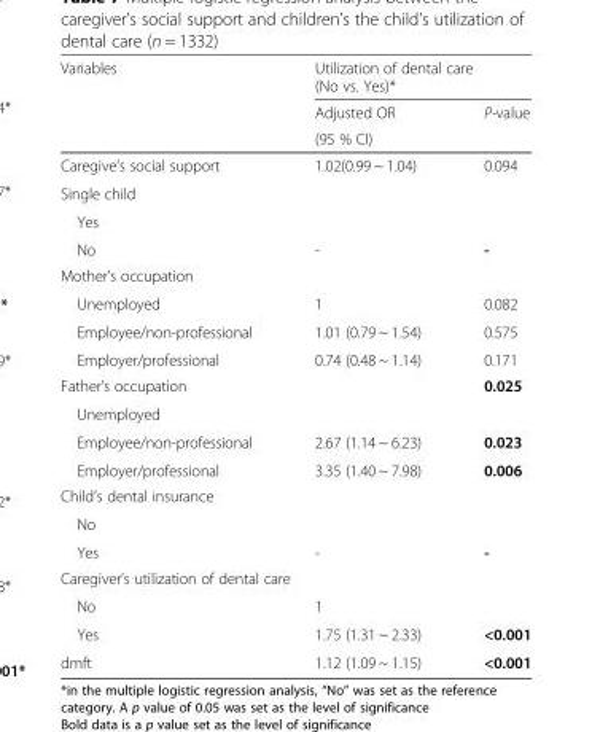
<table><thead><tr><td rowspan="4">Variables</td><td rowspan="2" colspan="2">Utilization of dental care (No vs. Yes)*</td></tr><tr></tr><tr><td rowspan="2">Adjusted OR (95 % CI)</td><td rowspan="2">P-value</td></tr><tr></tr></thead><tbody><tr><td>Caregive&#x27;s social support</td><td>1.02(0.99 ~ 1.04)</td><td>0.094</td></tr><tr><td colspan="3">Single child</td></tr><tr><td colspan="3">Yes</td></tr><tr><td>No</td><td>-</td><td>-</td></tr><tr><td colspan="3">Mother’s occupation</td></tr><tr><td>Unemployed</td><td>1</td><td>0.082</td></tr><tr><td>Employee/non-professional</td><td>1.01 (0.79 ~ 1.54)</td><td>0.575</td></tr><tr><td>Employer/professional</td><td>0.74 (0.48 ~ 1.14)</td><td>0.171</td></tr><tr><td>Father’s occupation</td><td></td><td>0.025</td></tr><tr><td colspan="3">Unemployed</td></tr><tr><td>Employee/non-professional</td><td>2.67 (1.14 ~ 6.23)</td><td>0.023</td></tr><tr><td>Employer/professional</td><td>3.35 (1.40 ~ 7.98)</td><td>0.006</td></tr><tr><td colspan="3">Child’s dental insurance</td></tr><tr><td colspan="3">No</td></tr><tr><td>Yes</td><td>-</td><td>-</td></tr><tr><td colspan="3">Caregiver’s utilization of dental care</td></tr><tr><td>No</td><td>1</td><td></td></tr><tr><td>Yes</td><td>1.75 (1.31 ~ 2.33)</td><td>&lt;0.001</td></tr><tr><td>dmft</td><td>1.12 (1.09 ~ 1.15)</td><td>&lt;0.001</td></tr></tbody></table>